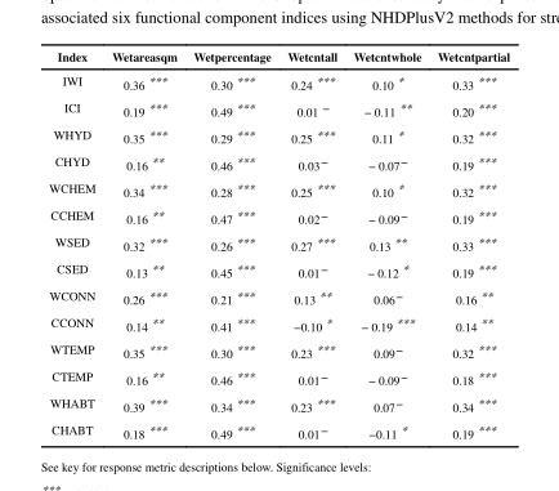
<table><thead><tr><td>Index</td><td>Wetareasqm</td><td>Wetpercentage</td><td>Wetcntall</td><td>Wetcntwhole</td><td>Wetcntpartial</td></tr></thead><tbody><tr><td>IWI</td><td>0.36 ***</td><td>0.30 ***</td><td>0.24 ***</td><td>0.10 *</td><td>0.33 ***</td></tr><tr><td>ICI</td><td>0.19 ***</td><td>0.49 ***</td><td>0.01 −</td><td>− 0.11 **</td><td>0.20 ***</td></tr><tr><td>WHYD</td><td>0.35 ***</td><td>0.29 ***</td><td>0.25 ***</td><td>0.11 *</td><td>0.32 ***</td></tr><tr><td>CHYD</td><td>0.16 **</td><td>0.46 ***</td><td>0.03−</td><td>− 0.07−</td><td>0.19 ***</td></tr><tr><td>WCHEM</td><td>0.34 ***</td><td>0.28 ***</td><td>0.25 ***</td><td>0.10 *</td><td>0.32 ***</td></tr><tr><td>CCHEM</td><td>0.16 **</td><td>0.47 ***</td><td>0.02−</td><td>− 0.09−</td><td>0.19 ***</td></tr><tr><td>WSED</td><td>0.32 ***</td><td>0.26 ***</td><td>0.27 ***</td><td>0.13 **</td><td>0.33 ***</td></tr><tr><td>CSED</td><td>0.13 **</td><td>0.45 ***</td><td>0.01−</td><td>− 0.12 *</td><td>0.19 ***</td></tr><tr><td>WCONN</td><td>0.26 ***</td><td>0.21 ***</td><td>0.13 **</td><td>0.06−</td><td>0.16 **</td></tr><tr><td>CCONN</td><td>0.14 **</td><td>0.41 ***</td><td>−0.10 *</td><td>− 0.19 ***</td><td>0.14 **</td></tr><tr><td>WTEMP</td><td>0.35 ***</td><td>0.30 ***</td><td>0.23 ***</td><td>0.09−</td><td>0.32 ***</td></tr><tr><td>CTEMP</td><td>0.16 **</td><td>0.46 ***</td><td>0.01−</td><td>− 0.09−</td><td>0.18 ***</td></tr><tr><td>WHABT</td><td>0.39 ***</td><td>0.34 ***</td><td>0.23 ***</td><td>0.07−</td><td>0.34 ***</td></tr><tr><td>CHABT</td><td>0.18 ***</td><td>0.49 ***</td><td>0.01−</td><td>−0.11 *</td><td>0.19 ***</td></tr></tbody></table>